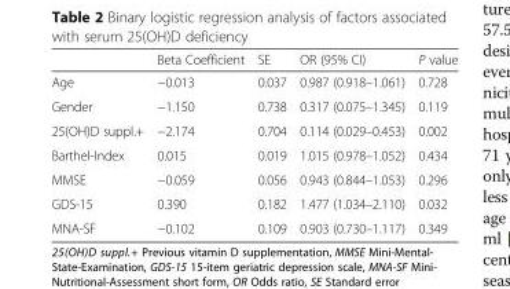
<table><thead><tr><td></td><td>Beta Coefficient</td><td>SE</td><td>OR (95% CI)</td><td>P value</td></tr></thead><tbody><tr><td>Age</td><td>−0.013</td><td>0.037</td><td>0.987 (0.918–1.061)</td><td>0.728</td></tr><tr><td>Gender</td><td>−1.150</td><td>0.738</td><td>0.317 (0.075–1.345)</td><td>0.119</td></tr><tr><td>25(OH)D suppl.+</td><td>−2.174</td><td>0.704</td><td>0.114 (0.029–0.453)</td><td>0.002</td></tr><tr><td>Barthel-Index</td><td>0.015</td><td>0.019</td><td>1.015 (0.978–1.052)</td><td>0.434</td></tr><tr><td>MMSE</td><td>−0.059</td><td>0.056</td><td>0.943 (0.844–1.053)</td><td>0.296</td></tr><tr><td>GDS-15</td><td>0.390</td><td>0.182</td><td>1.477 (1.034–2.110)</td><td>0.032</td></tr><tr><td>MNA-SF</td><td>−0.102</td><td>0.109</td><td>0.903 (0.730–1.117)</td><td>0.349</td></tr></tbody></table>